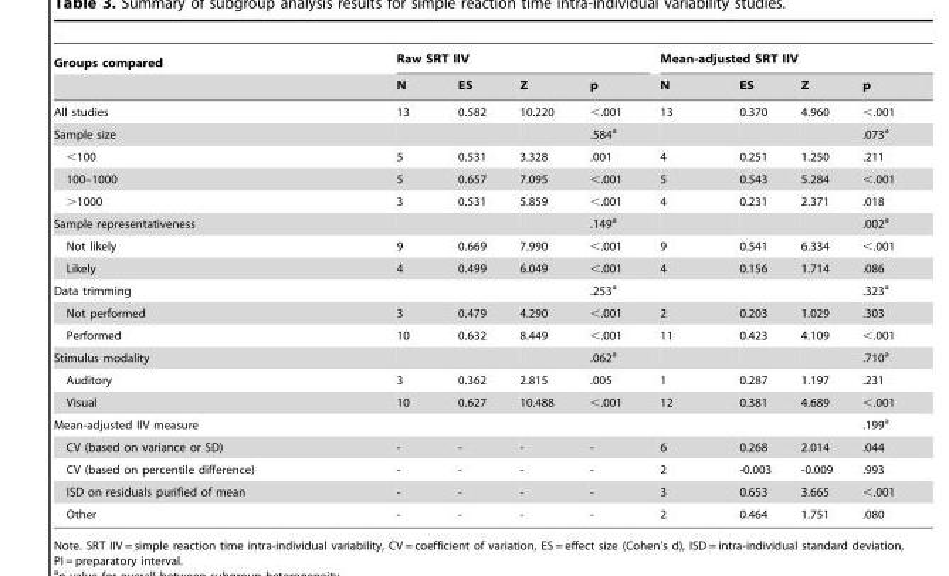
<table><thead><tr><td rowspan="2">Groups compared</td><td colspan="4">Raw SRT IIV</td><td colspan="4">Mean-adjusted SRT IIV</td></tr><tr><td>N</td><td>ES</td><td>Z</td><td>p</td><td>N</td><td>ES</td><td>Z</td><td>p</td></tr></thead><tbody><tr><td>All studies</td><td>13</td><td>0.582</td><td>10.220</td><td>&lt;.001</td><td>13</td><td>0.370</td><td>4.960</td><td>&lt;.001</td></tr><tr><td>Sample size</td><td></td><td></td><td></td><td>.584<sup>a</sup></td><td></td><td></td><td></td><td>.073<sup>a</sup></td></tr><tr><td>&lt;100</td><td>5</td><td>0.531</td><td>3.328</td><td>.001</td><td>4</td><td>0.251</td><td>1.250</td><td>.211</td></tr><tr><td>100–1000</td><td>5</td><td>0.657</td><td>7.095</td><td>&lt;.001</td><td>5</td><td>0.543</td><td>5.284</td><td>&lt;.001</td></tr><tr><td>&gt;1000</td><td>3</td><td>0.531</td><td>5.859</td><td>&lt;.001</td><td>4</td><td>0.231</td><td>2.371</td><td>.018</td></tr><tr><td>Sample representativeness</td><td></td><td></td><td></td><td>.149<sup>a</sup></td><td></td><td></td><td></td><td>.002<sup>a</sup></td></tr><tr><td>Not likely</td><td>9</td><td>0.669</td><td>7.990</td><td>&lt;.001</td><td>9</td><td>0.541</td><td>6.334</td><td>&lt;.001</td></tr><tr><td>Likely</td><td>4</td><td>0.499</td><td>6.049</td><td>&lt;.001</td><td>4</td><td>0.156</td><td>1.714</td><td>.086</td></tr><tr><td>Data trimming</td><td></td><td></td><td></td><td>.253<sup>a</sup></td><td></td><td></td><td></td><td>.323<sup>a</sup></td></tr><tr><td>Not performed</td><td>3</td><td>0.479</td><td>4.290</td><td>&lt;.001</td><td>2</td><td>0.203</td><td>1.029</td><td>.303</td></tr><tr><td>Performed</td><td>10</td><td>0.632</td><td>8.449</td><td>&lt;.001</td><td>11</td><td>0.423</td><td>4.109</td><td>&lt;.001</td></tr><tr><td>Stimulus modality</td><td></td><td></td><td></td><td>.062<sup>a</sup></td><td></td><td></td><td></td><td>.710<sup>a</sup></td></tr><tr><td>Auditory</td><td>3</td><td>0.362</td><td>2.815</td><td>.005</td><td>1</td><td>0.287</td><td>1.197</td><td>.231</td></tr><tr><td>Visual</td><td>10</td><td>0.627</td><td>10.488</td><td>&lt;.001</td><td>12</td><td>0.381</td><td>4.689</td><td>&lt;.001</td></tr><tr><td>Mean-adjusted IIV measure</td><td></td><td></td><td></td><td></td><td></td><td></td><td></td><td>.199<sup>a</sup></td></tr><tr><td>CV (based on variance or SD)</td><td>-</td><td>-</td><td>-</td><td>-</td><td>6</td><td>0.268</td><td>2.014</td><td>.044</td></tr><tr><td>CV (based on percentile difference)</td><td>-</td><td>-</td><td>-</td><td>-</td><td>2</td><td>-0.003</td><td>-0.009</td><td>.993</td></tr><tr><td>ISD on residuals purified of mean</td><td>-</td><td>-</td><td>-</td><td>-</td><td>3</td><td>0.653</td><td>3.665</td><td>&lt;.001</td></tr><tr><td>Other</td><td>-</td><td>-</td><td>-</td><td>-</td><td>2</td><td>0.464</td><td>1.751</td><td>.080</td></tr></tbody></table>